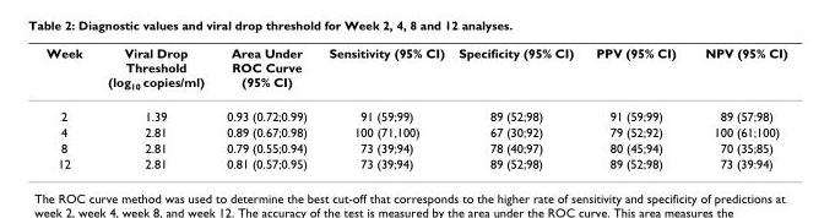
<table><thead><tr><td>Week</td><td>Viral Drop Threshold (log10 copies/ml)</td><td>Area Under ROC Curve (95% CI)</td><td>Sensitivity (95% CI)</td><td>Specificity (95% CI)</td><td>PPV (95% CI)</td><td>NPV (95% CI)</td></tr></thead><tbody><tr><td>2</td><td>1.39</td><td>0.93 (0.72;0.99)</td><td>91 (59;99)</td><td>89 (52;98)</td><td>91 (59;99)</td><td>89 (57;98)</td></tr><tr><td>4</td><td>2.81</td><td>0.89 (0.67;0.98)</td><td>100 (71,100)</td><td>67 (30;92)</td><td>79 (52;92)</td><td>100 (61;100)</td></tr><tr><td>8</td><td>2.81</td><td>0.79 (0.55;0.94)</td><td>73 (39;94)</td><td>78 (40;97)</td><td>80 (45;94)</td><td>70 (35;85)</td></tr><tr><td>12</td><td>2.81</td><td>0.81 (0.57;0.95)</td><td>73 (39;94)</td><td>89 (52;98)</td><td>89 (52;98)</td><td>73 (39:94)</td></tr></tbody></table>